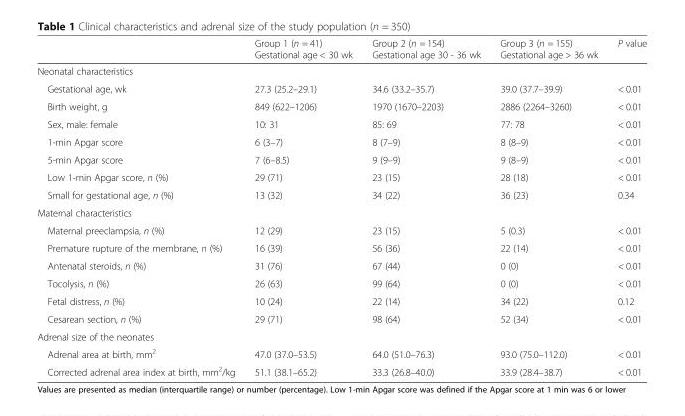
<table><thead><tr><td></td><td>Group 1 (n = 41) Gestational age &lt; 30 wk</td><td>Group 2 (n = 154) Gestational age 30 - 36 wk</td><td>Group 3 (n = 155) Gestational age &gt; 36 wk</td><td>P value</td></tr></thead><tbody><tr><td colspan="5">Neonatal characteristics</td></tr><tr><td>Gestational age, wk</td><td>27.3 (25.2–29.1)</td><td>34.6 (33.2–35.7)</td><td>39.0 (37.7–39.9)</td><td>&lt; 0.01</td></tr><tr><td>Birth weight, g</td><td>849 (622–1206)</td><td>1970 (1670–2203)</td><td>2886 (2264–3260)</td><td>&lt; 0.01</td></tr><tr><td>Sex, male: female</td><td>10: 31</td><td>85: 69</td><td>77: 78</td><td>&lt; 0.01</td></tr><tr><td>1-min Apgar score</td><td>6 (3–7)</td><td>8 (7–9)</td><td>8 (8–9)</td><td>&lt; 0.01</td></tr><tr><td>5-min Apgar score</td><td>7 (6–8.5)</td><td>9 (9–9)</td><td>9 (8–9)</td><td>&lt; 0.01</td></tr><tr><td>Low 1-min Apgar score, n (%)</td><td>29 (71)</td><td>23 (15)</td><td>28 (18)</td><td>&lt; 0.01</td></tr><tr><td>Small for gestational age, n (%)</td><td>13 (32)</td><td>34 (22)</td><td>36 (23)</td><td>0.34</td></tr><tr><td colspan="5">Maternal characteristics</td></tr><tr><td>Maternal preeclampsia, n (%)</td><td>12 (29)</td><td>23 (15)</td><td>5 (0.3)</td><td>&lt; 0.01</td></tr><tr><td>Premature rupture of the membrane, n (%)</td><td>16 (39)</td><td>56 (36)</td><td>22 (14)</td><td>&lt; 0.01</td></tr><tr><td>Antenatal steroids, n (%)</td><td>31 (76)</td><td>67 (44)</td><td>0 (0)</td><td>&lt; 0.01</td></tr><tr><td>Tocolysis, n (%)</td><td>26 (63)</td><td>99 (64)</td><td>0 (0)</td><td>&lt; 0.01</td></tr><tr><td>Fetal distress, n (%)</td><td>10 (24)</td><td>22 (14)</td><td>34 (22)</td><td>0.12</td></tr><tr><td>Cesarean section, n (%)</td><td>29 (71)</td><td>98 (64)</td><td>52 (34)</td><td>&lt; 0.01</td></tr><tr><td colspan="5">Adrenal size of the neonates</td></tr><tr><td>Adrenal area at birth, mm<sup>2</sup></td><td>47.0 (37.0–53.5)</td><td>64.0 (51.0–76.3)</td><td>93.0 (75.0–112.0)</td><td>&lt; 0.01</td></tr><tr><td>Corrected adrenal area index at birth, mm<sup>2</sup>/kg</td><td>51.1 (38.1–65.2)</td><td>33.3 (26.8–40.0)</td><td>33.9 (28.4–38.7)</td><td>&lt; 0.01</td></tr></tbody></table>